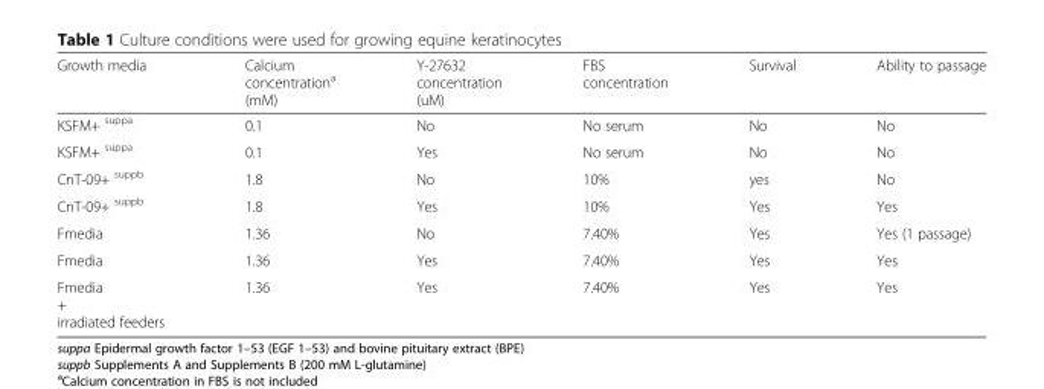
<table><thead><tr><td>Growth media</td><td>Calcium concentration<sup>a</sup> (mM)</td><td>Y-27632 concentration (uM)</td><td>FBS concentration</td><td>Survival</td><td>Ability to passage</td></tr></thead><tbody><tr><td>KSFM+ <sup>suppa</sup></td><td>0.1</td><td>No</td><td>No serum</td><td>No</td><td>No</td></tr><tr><td>KSFM+ <sup>suppa</sup></td><td>0.1</td><td>Yes</td><td>No serum</td><td>No</td><td>No</td></tr><tr><td>CnT-09+ <sup>suppb</sup></td><td>1.8</td><td>No</td><td>10%</td><td>yes</td><td>No</td></tr><tr><td>CnT-09+ <sup>suppb</sup></td><td>1.8</td><td>Yes</td><td>10%</td><td>Yes</td><td>Yes</td></tr><tr><td>Fmedia</td><td>1.36</td><td>No</td><td>7.40%</td><td>Yes</td><td>Yes (1 passage)</td></tr><tr><td>Fmedia</td><td>1.36</td><td>Yes</td><td>7.40%</td><td>Yes</td><td>Yes</td></tr><tr><td>Fmedia + irradiated feeders</td><td>1.36</td><td>Yes</td><td>7.40%</td><td>Yes</td><td>Yes</td></tr></tbody></table>